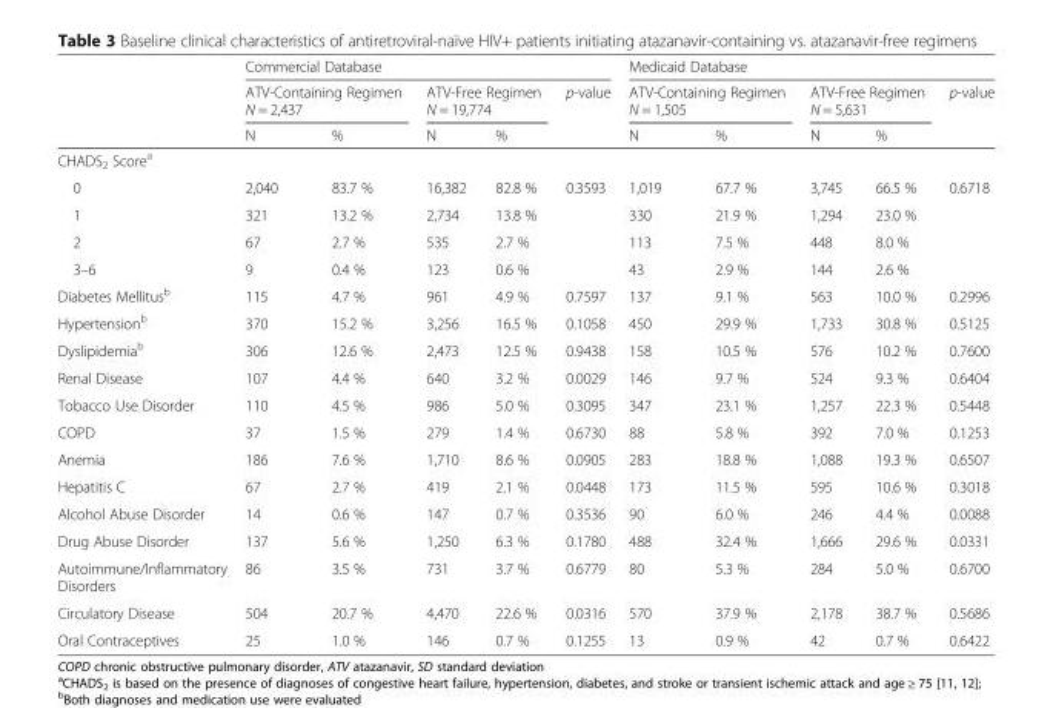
<table><thead><tr><td rowspan="3"></td><td colspan="5">Commercial Database</td><td colspan="5">Medicaid Database</td></tr><tr><td colspan="2">ATV-Containing Regimen N = 2,437</td><td colspan="2">ATV-Free Regimen N = 19,774</td><td rowspan="2">p-value</td><td colspan="2">ATV-Containing Regimen N = 1,505</td><td colspan="2">ATV-Free Regimen N = 5,631</td><td rowspan="2">p-value</td></tr><tr><td>N</td><td>%</td><td>N</td><td>%</td><td>N</td><td>%</td><td>N</td><td>%</td></tr></thead><tbody><tr><td colspan="11">CHADS<sub>2</sub> Score<sup>a</sup></td></tr><tr><td>0</td><td>2,040</td><td>83.7 %</td><td>16,382</td><td>82.8 %</td><td>0.3593</td><td>1,019</td><td>67.7 %</td><td>3,745</td><td>66.5 %</td><td>0.6718</td></tr><tr><td>1</td><td>321</td><td>13.2 %</td><td>2,734</td><td>13.8 %</td><td></td><td>330</td><td>21.9 %</td><td>1,294</td><td>23.0 %</td><td></td></tr><tr><td>2</td><td>67</td><td>2.7 %</td><td>535</td><td>2.7 %</td><td></td><td>113</td><td>7.5 %</td><td>448</td><td>8.0 %</td><td></td></tr><tr><td>3–6</td><td>9</td><td>0.4 %</td><td>123</td><td>0.6 %</td><td></td><td>43</td><td>2.9 %</td><td>144</td><td>2.6 %</td><td></td></tr><tr><td>Diabetes Mellitus<sup>b</sup></td><td>115</td><td>4.7 %</td><td>961</td><td>4.9 %</td><td>0.7597</td><td>137</td><td>9.1 %</td><td>563</td><td>10.0 %</td><td>0.2996</td></tr><tr><td>Hypertension<sup>b</sup></td><td>370</td><td>15.2 %</td><td>3,256</td><td>16.5 %</td><td>0.1058</td><td>450</td><td>29.9 %</td><td>1,733</td><td>30.8 %</td><td>0.5125</td></tr><tr><td>Dyslipidemia<sup>b</sup></td><td>306</td><td>12.6 %</td><td>2,473</td><td>12.5 %</td><td>0.9438</td><td>158</td><td>10.5 %</td><td>576</td><td>10.2 %</td><td>0.7600</td></tr><tr><td>Renal Disease</td><td>107</td><td>4.4 %</td><td>640</td><td>3.2 %</td><td>0.0029</td><td>146</td><td>9.7 %</td><td>524</td><td>9.3 %</td><td>0.6404</td></tr><tr><td>Tobacco Use Disorder</td><td>110</td><td>4.5 %</td><td>986</td><td>5.0 %</td><td>0.3095</td><td>347</td><td>23.1 %</td><td>1,257</td><td>22.3 %</td><td>0.5448</td></tr><tr><td>COPD</td><td>37</td><td>1.5 %</td><td>279</td><td>1.4 %</td><td>0.6730</td><td>88</td><td>5.8 %</td><td>392</td><td>7.0 %</td><td>0.1253</td></tr><tr><td>Anemia</td><td>186</td><td>7.6 %</td><td>1,710</td><td>8.6 %</td><td>0.0905</td><td>283</td><td>18.8 %</td><td>1,088</td><td>19.3 %</td><td>0.6507</td></tr><tr><td>Hepatitis C</td><td>67</td><td>2.7 %</td><td>419</td><td>2.1 %</td><td>0.0448</td><td>173</td><td>11.5 %</td><td>595</td><td>10.6 %</td><td>0.3018</td></tr><tr><td>Alcohol Abuse Disorder</td><td>14</td><td>0.6 %</td><td>147</td><td>0.7 %</td><td>0.3536</td><td>90</td><td>6.0 %</td><td>246</td><td>4.4 %</td><td>0.0088</td></tr><tr><td>Drug Abuse Disorder</td><td>137</td><td>5.6 %</td><td>1,250</td><td>6.3 %</td><td>0.1780</td><td>488</td><td>32.4 %</td><td>1,666</td><td>29.6 %</td><td>0.0331</td></tr><tr><td>Autoimmune/Inflammatory Disorders</td><td>86</td><td>3.5 %</td><td>731</td><td>3.7 %</td><td>0.6779</td><td>80</td><td>5.3 %</td><td>284</td><td>5.0 %</td><td>0.6700</td></tr><tr><td>Circulatory Disease</td><td>504</td><td>20.7 %</td><td>4,470</td><td>22.6 %</td><td>0.0316</td><td>570</td><td>37.9 %</td><td>2,178</td><td>38.7 %</td><td>0.5686</td></tr><tr><td>Oral Contraceptives</td><td>25</td><td>1.0 %</td><td>146</td><td>0.7 %</td><td>0.1255</td><td>13</td><td>0.9 %</td><td>42</td><td>0.7 %</td><td>0.6422</td></tr></tbody></table>